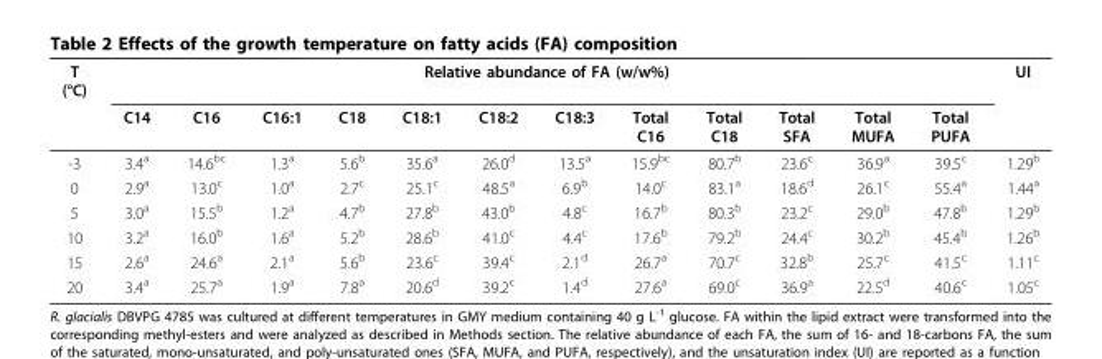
<table><thead><tr><td rowspan="2">T (°C)</td><td colspan="12">Relative abundance of FA (w/w%)</td><td rowspan="2">UI</td></tr><tr><td>C14</td><td>C16</td><td>C16:1</td><td>C18</td><td>C18:1</td><td>C18:2</td><td>C18:3</td><td>Total C16</td><td>Total C18</td><td>Total SFA</td><td>Total MUFA</td><td>Total PUFA</td></tr></thead><tbody><tr><td>-3</td><td>3.4<sup>a</sup></td><td>14.6<sup>bc</sup></td><td>1.3<sup>a</sup></td><td>5.6<sup>b</sup></td><td>35.6<sup>a</sup></td><td>26.0<sup>d</sup></td><td>13.5<sup>a</sup></td><td>15.9<sup>bc</sup></td><td>80.7<sup>b</sup></td><td>23.6<sup>c</sup></td><td>36.9<sup>a</sup></td><td>39.5<sup>c</sup></td><td>1.29<sup>b</sup></td></tr><tr><td>0</td><td>2.9<sup>a</sup></td><td>13.0<sup>c</sup></td><td>1.0<sup>a</sup></td><td>2.7<sup>c</sup></td><td>25.1<sup>c</sup></td><td>48.5<sup>a</sup></td><td>6.9<sup>b</sup></td><td>14.0<sup>c</sup></td><td>83.1<sup>a</sup></td><td>18.6<sup>d</sup></td><td>26.1<sup>c</sup></td><td>55.4<sup>a</sup></td><td>1.44<sup>a</sup></td></tr><tr><td>5</td><td>3.0<sup>a</sup></td><td>15.5<sup>b</sup></td><td>1.2<sup>a</sup></td><td>4.7<sup>b</sup></td><td>27.8<sup>b</sup></td><td>43.0<sup>b</sup></td><td>4.8<sup>c</sup></td><td>16.7<sup>b</sup></td><td>80.3<sup>b</sup></td><td>23.2<sup>c</sup></td><td>29.0<sup>b</sup></td><td>47.8<sup>b</sup></td><td>1.29<sup>b</sup></td></tr><tr><td>10</td><td>3.2<sup>a</sup></td><td>16.0<sup>b</sup></td><td>1.6<sup>a</sup></td><td>5.2<sup>b</sup></td><td>28.6<sup>b</sup></td><td>41.0<sup>c</sup></td><td>4.4<sup>c</sup></td><td>17.6<sup>b</sup></td><td>79.2<sup>b</sup></td><td>24.4<sup>c</sup></td><td>30.2<sup>b</sup></td><td>45.4<sup>b</sup></td><td>1.26<sup>b</sup></td></tr><tr><td>15</td><td>2.6<sup>a</sup></td><td>24.6<sup>a</sup></td><td>2.1<sup>a</sup></td><td>5.6<sup>b</sup></td><td>23.6<sup>c</sup></td><td>39.4<sup>c</sup></td><td>2.1<sup>d</sup></td><td>26.7<sup>a</sup></td><td>70.7<sup>c</sup></td><td>32.8<sup>b</sup></td><td>25.7<sup>c</sup></td><td>41.5<sup>c</sup></td><td>1.11<sup>c</sup></td></tr><tr><td>20</td><td>3.4<sup>a</sup></td><td>25.7<sup>a</sup></td><td>1.9<sup>a</sup></td><td>7.8<sup>a</sup></td><td>20.6<sup>d</sup></td><td>39.2<sup>c</sup></td><td>1.4<sup>d</sup></td><td>27.6<sup>a</sup></td><td>69.0<sup>c</sup></td><td>36.9<sup>a</sup></td><td>22.5<sup>d</sup></td><td>40.6<sup>c</sup></td><td>1.05<sup>c</sup></td></tr></tbody></table>